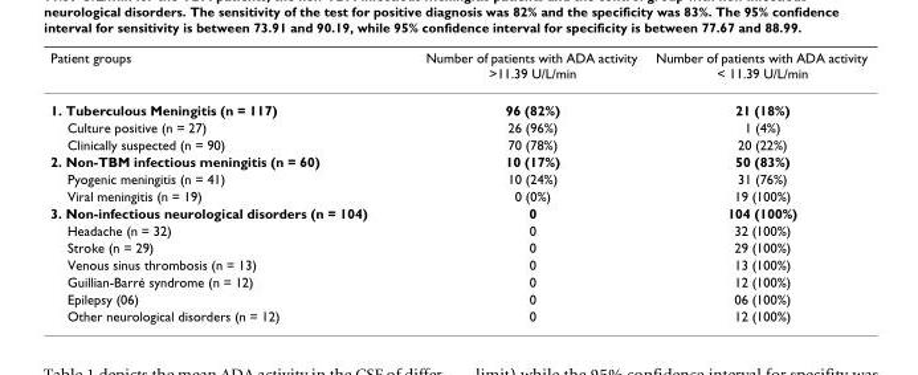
<table><thead><tr><td>Patient groups</td><td>Number of patients with ADA activity &gt;11.39 U/L/min</td><td>Number of patients with ADA activity &lt; 11.39 U/L/min</td></tr></thead><tbody><tr><td>1. Tuberculous Meningitis (n = 117)</td><td>96 (82%)</td><td>21 (18%)</td></tr><tr><td>Culture positive (n = 27)</td><td>26 (96%)</td><td>1 (4%)</td></tr><tr><td>Clinically suspected (n = 90)</td><td>70 (78%)</td><td>20 (22%)</td></tr><tr><td>2. Non-TBM infectious meningitis (n = 60)</td><td>10 (17%)</td><td>50 (83%)</td></tr><tr><td>Pyogenic meningitis (n = 41)</td><td>10 (24%)</td><td>31 (76%)</td></tr><tr><td>Viral meningitis (n = 19)</td><td>0 (0%)</td><td>19 (100%)</td></tr><tr><td>3. Non-infectious neurological disorders (n = 104)</td><td>0</td><td>104 (100%)</td></tr><tr><td>Headache (n = 32)</td><td>0</td><td>32 (100%)</td></tr><tr><td>Stroke (n = 29)</td><td>0</td><td>29 (100%)</td></tr><tr><td>Venous sinus thrombosis (n = 13)</td><td>0</td><td>13 (100%)</td></tr><tr><td>Guillian-Barré syndrome (n = 12)</td><td>0</td><td>12 (100%)</td></tr><tr><td>Epilepsy (06)</td><td>0</td><td>06 (100%)</td></tr><tr><td>Other neurological disorders (n = 12)</td><td>0</td><td>12 (100%)</td></tr></tbody></table>